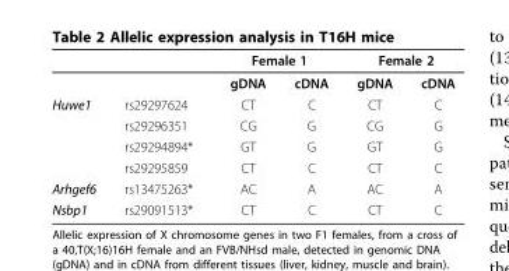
<table><thead><tr><td rowspan="2"></td><td rowspan="2"></td><td colspan="2">Female 1</td><td colspan="2">Female 2</td></tr><tr><td>gDNA</td><td>cDNA</td><td>gDNA</td><td>cDNA</td></tr></thead><tbody><tr><td rowspan="4">Huwe1</td><td>rs29297624</td><td>CT</td><td>C</td><td>CT</td><td>C</td></tr><tr><td>rs29296351</td><td>CG</td><td>G</td><td>CG</td><td>G</td></tr><tr><td>rs29294894*</td><td>GT</td><td>G</td><td>GT</td><td>G</td></tr><tr><td>rs29295859</td><td>CT</td><td>C</td><td>CT</td><td>C</td></tr><tr><td>Arhgef6</td><td>rs13475263*</td><td>AC</td><td>A</td><td>AC</td><td>A</td></tr><tr><td>Nsbp1</td><td>rs29091513*</td><td>CT</td><td>C</td><td>CT</td><td>C</td></tr></tbody></table>